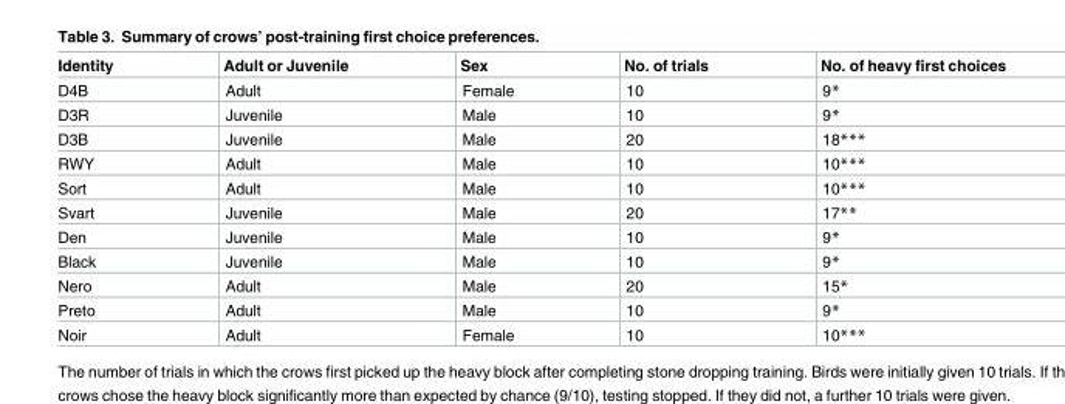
<table><thead><tr><td>Identity</td><td>Adult or Juvenile</td><td>Sex</td><td>No. of trials</td><td>No. of heavy first choices</td></tr></thead><tbody><tr><td>D4B</td><td>Adult</td><td>Female</td><td>10</td><td>9*</td></tr><tr><td>D3R</td><td>Juvenile</td><td>Male</td><td>10</td><td>9*</td></tr><tr><td>D3B</td><td>Juvenile</td><td>Male</td><td>20</td><td>18***</td></tr><tr><td>RWY</td><td>Adult</td><td>Male</td><td>10</td><td>10***</td></tr><tr><td>Sort</td><td>Adult</td><td>Male</td><td>10</td><td>10***</td></tr><tr><td>Svart</td><td>Juvenile</td><td>Male</td><td>20</td><td>17**</td></tr><tr><td>Den</td><td>Juvenile</td><td>Male</td><td>10</td><td>9*</td></tr><tr><td>Black</td><td>Juvenile</td><td>Male</td><td>10</td><td>9*</td></tr><tr><td>Nero</td><td>Adult</td><td>Male</td><td>20</td><td>15*</td></tr><tr><td>Preto</td><td>Adult</td><td>Male</td><td>10</td><td>9*</td></tr><tr><td>Noir</td><td>Adult</td><td>Female</td><td>10</td><td>10***</td></tr></tbody></table>